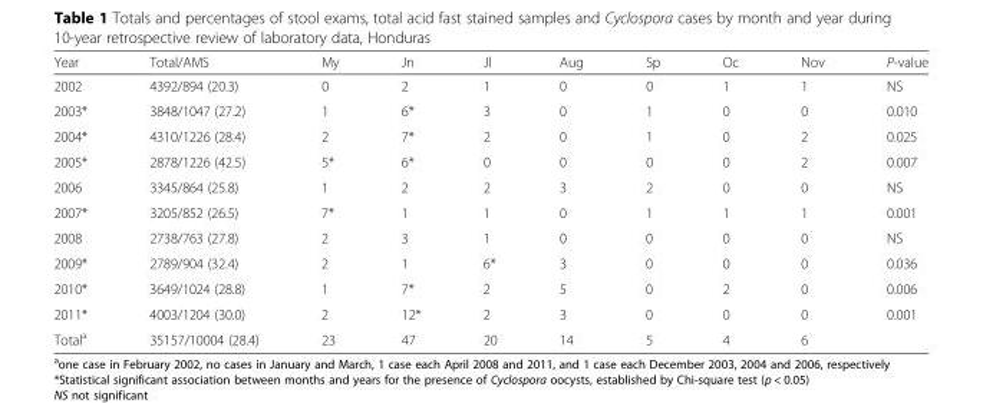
<table><thead><tr><td>Year</td><td>Total/AMS</td><td>My</td><td>Jn</td><td>Jl</td><td>Aug</td><td>Sp</td><td>Oc</td><td>Nov</td><td>P-value</td></tr></thead><tbody><tr><td>2002</td><td>4392/894 (20.3)</td><td>0</td><td>2</td><td>1</td><td>0</td><td>0</td><td>1</td><td>1</td><td>NS</td></tr><tr><td>2003*</td><td>3848/1047 (27.2)</td><td>1</td><td>6*</td><td>3</td><td>0</td><td>1</td><td>0</td><td>0</td><td>0.010</td></tr><tr><td>2004*</td><td>4310/1226 (28.4)</td><td>2</td><td>7*</td><td>2</td><td>0</td><td>1</td><td>0</td><td>2</td><td>0.025</td></tr><tr><td>2005*</td><td>2878/1226 (42.5)</td><td>5*</td><td>6*</td><td>0</td><td>0</td><td>0</td><td>0</td><td>2</td><td>0.007</td></tr><tr><td>2006</td><td>3345/864 (25.8)</td><td>1</td><td>2</td><td>2</td><td>3</td><td>2</td><td>0</td><td>0</td><td>NS</td></tr><tr><td>2007*</td><td>3205/852 (26.5)</td><td>7*</td><td>1</td><td>1</td><td>0</td><td>1</td><td>1</td><td>1</td><td>0.001</td></tr><tr><td>2008</td><td>2738/763 (27.8)</td><td>2</td><td>3</td><td>1</td><td>0</td><td>0</td><td>0</td><td>0</td><td>NS</td></tr><tr><td>2009*</td><td>2789/904 (32.4)</td><td>2</td><td>1</td><td>6*</td><td>3</td><td>0</td><td>0</td><td>0</td><td>0.036</td></tr><tr><td>2010*</td><td>3649/1024 (28.8)</td><td>1</td><td>7*</td><td>2</td><td>5</td><td>0</td><td>2</td><td>0</td><td>0.006</td></tr><tr><td>2011*</td><td>4003/1204 (30.0)</td><td>2</td><td>12*</td><td>2</td><td>3</td><td>0</td><td>0</td><td>0</td><td>0.001</td></tr><tr><td>Total<sup>a</sup></td><td>35157/10004 (28.4)</td><td>23</td><td>47</td><td>20</td><td>14</td><td>5</td><td>4</td><td>6</td><td></td></tr></tbody></table>